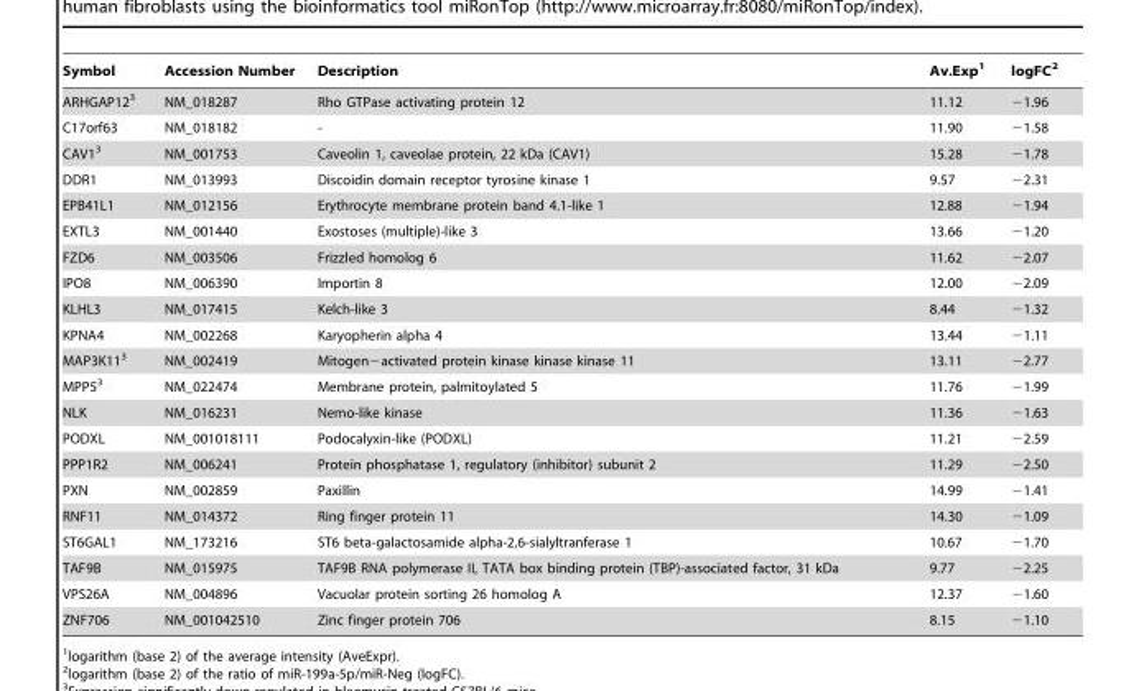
<table><thead><tr><td>Symbol</td><td>Accession Number</td><td>Description</td><td>Av.Exp<sup>1</sup></td><td>logFC<sup>2</sup></td></tr></thead><tbody><tr><td>ARHGAP12<sup>3</sup></td><td>NM_018287</td><td>Rho GTPase activating protein 12</td><td>11.12</td><td>−1.96</td></tr><tr><td>C17orf63</td><td>NM_018182</td><td>-</td><td>11.90</td><td>−1.58</td></tr><tr><td>CAV1<sup>3</sup></td><td>NM_001753</td><td>Caveolin 1, caveolae protein, 22 kDa (CAV1)</td><td>15.28</td><td>−1.78</td></tr><tr><td>DDR1</td><td>NM_013993</td><td>Discoidin domain receptor tyrosine kinase 1</td><td>9.57</td><td>−2.31</td></tr><tr><td>EPB41L1</td><td>NM_012156</td><td>Erythrocyte membrane protein band 4.1-like 1</td><td>12.88</td><td>−1.94</td></tr><tr><td>EXTL3</td><td>NM_001440</td><td>Exostoses (multiple)-like 3</td><td>13.66</td><td>−1.20</td></tr><tr><td>FZD6</td><td>NM_003506</td><td>Frizzled homolog 6</td><td>11.62</td><td>−2.07</td></tr><tr><td>IPO8</td><td>NM_006390</td><td>Importin 8</td><td>12.00</td><td>−2.09</td></tr><tr><td>KLHL3</td><td>NM_017415</td><td>Kelch-like 3</td><td>8.44</td><td>−1.32</td></tr><tr><td>KPNA4</td><td>NM_002268</td><td>Karyopherin alpha 4</td><td>13.44</td><td>−1.11</td></tr><tr><td>MAP3K11<sup>3</sup></td><td>NM_002419</td><td>Mitogen−activated protein kinase kinase kinase 11</td><td>13.11</td><td>−2.77</td></tr><tr><td>MPP5<sup>3</sup></td><td>NM_022474</td><td>Membrane protein, palmitoylated 5</td><td>11.76</td><td>−1.99</td></tr><tr><td>NLK</td><td>NM_016231</td><td>Nemo-like kinase</td><td>11.36</td><td>−1.63</td></tr><tr><td>PODXL</td><td>NM_001018111</td><td>Podocalyxin-like (PODXL)</td><td>11.21</td><td>−2.59</td></tr><tr><td>PPP1R2</td><td>NM_006241</td><td>Protein phosphatase 1, regulatory (inhibitor) subunit 2</td><td>11.29</td><td>−2.50</td></tr><tr><td>PXN</td><td>NM_002859</td><td>Paxillin</td><td>14.99</td><td>−1.41</td></tr><tr><td>RNF11</td><td>NM_014372</td><td>Ring finger protein 11</td><td>14.30</td><td>−1.09</td></tr><tr><td>ST6GAL1</td><td>NM_173216</td><td>ST6 beta-galactosamide alpha-2,6-sialyltranferase 1</td><td>10.67</td><td>−1.70</td></tr><tr><td>TAF9B</td><td>NM_015975</td><td>TAF9B RNA polymerase II, TATA box binding protein (TBP)-associated factor, 31 kDa</td><td>9.77</td><td>−2.25</td></tr><tr><td>VPS26A</td><td>NM_004896</td><td>Vacuolar protein sorting 26 homolog A</td><td>12.37</td><td>−1.60</td></tr><tr><td>ZNF706</td><td>NM_001042510</td><td>Zinc finger protein 706</td><td>8.15</td><td>−1.10</td></tr></tbody></table>